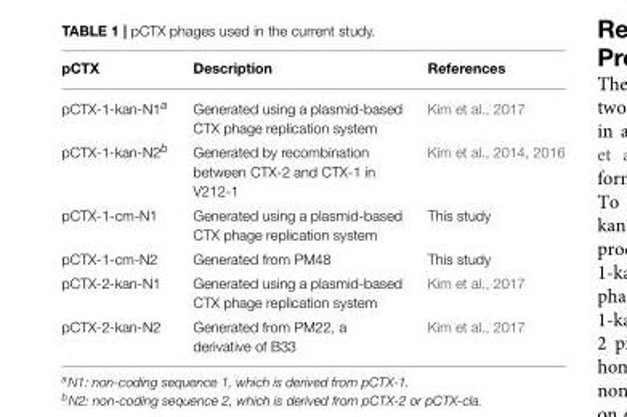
<table><thead><tr><td>pCTX</td><td>Description</td><td>References</td></tr></thead><tbody><tr><td>pCTX-1-kan-N1<sup>a</sup></td><td>Generated using a plasmid-based CTX phage replication system</td><td>Kim et al., 2017</td></tr><tr><td>pCTX-1-kan-N2<sup>b</sup></td><td>Generated by recombination between CTX-2 and CTX-1 in V212-1</td><td>Kim et al., 2014, 2016</td></tr><tr><td>pCTX-1-cm-N1</td><td>Generated using a plasmid-based CTX phage replication system</td><td>This study</td></tr><tr><td>pCTX-1-cm-N2</td><td>Generated from PM48</td><td>This study</td></tr><tr><td>pCTX-2-kan-N1</td><td>Generated using a plasmid-based CTX phage replication system</td><td>Kim et al., 2017</td></tr><tr><td>pCTX-2-kan-N2</td><td>Generated from PM22, a derivative of B33</td><td>Kim et al., 2017</td></tr></tbody></table>